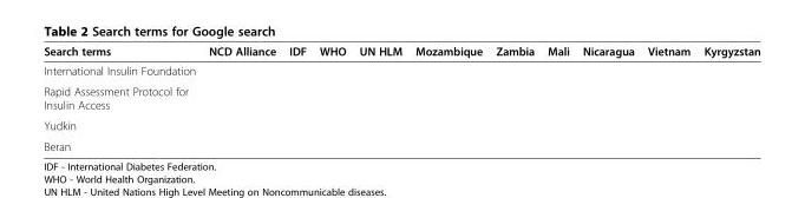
<table><thead><tr><td>Search terms</td><td>NCD Alliance</td><td>IDF</td><td>WHO</td><td>UN HLM</td><td>Mozambique</td><td>Zambia</td><td>Mali</td><td>Nicaragua</td><td>Vietnam</td><td>Kyrgyzstan</td></tr></thead><tbody><tr><td colspan="11">International Insulin Foundation</td></tr><tr><td colspan="11">Rapid Assessment Protocol for Insulin Access</td></tr><tr><td colspan="11">Yudkin</td></tr><tr><td>Beran</td><td></td><td></td><td></td><td></td><td></td><td></td><td></td><td></td><td></td><td></td></tr></tbody></table>